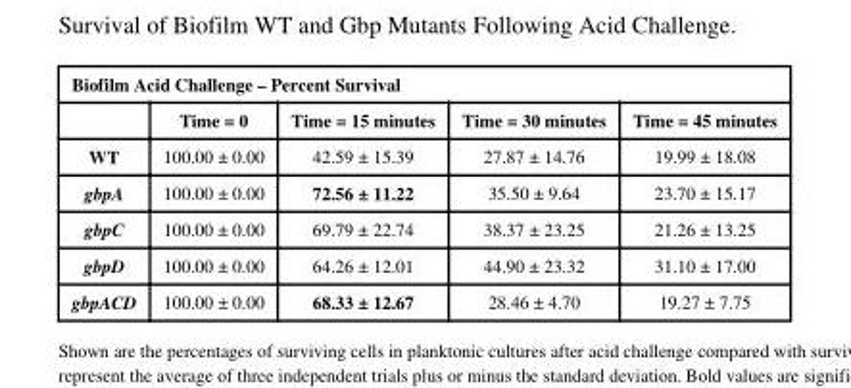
<table><thead><tr><td colspan="5">Biofilm Acid Challenge – Percent Survival</td></tr><tr><td></td><td>Time = 0</td><td>Time = 15 minutes</td><td>Time = 30 minutes</td><td>Time = 45 minutes</td></tr></thead><tbody><tr><td>WT</td><td>100.00 ± 0.00</td><td>42.59 ± 15.39</td><td>27.87 ± 14.76</td><td>19.99 ± 18.08</td></tr><tr><td>gbpA</td><td>100.00 ± 0.00</td><td>72.56 ± 11.22</td><td>35.50 ± 9.64</td><td>23.70 ± 15.17</td></tr><tr><td>gbpC</td><td>100.00 ± 0.00</td><td>69.79 ± 22.74</td><td>38.37 ± 23.25</td><td>21.26 ± 13.25</td></tr><tr><td>gbpD</td><td>100.00 ± 0.00</td><td>64.26 ± 12.01</td><td>44.90 ± 23.32</td><td>31.10 ± 17.00</td></tr><tr><td>gbpACD</td><td>100.00 ± 0.00</td><td>68.33 ± 12.67</td><td>28.46 ± 4.70</td><td>19.27 ± 7.75</td></tr></tbody></table>